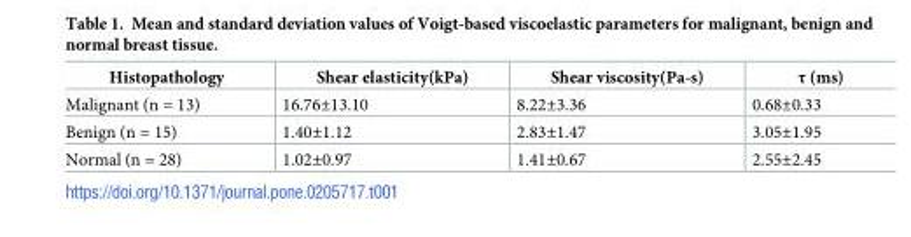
<table><thead><tr><td>Histopathology</td><td>Shear elasticity(kPa)</td><td>Shear viscosity(Pa-s)</td><td>τ (ms)</td></tr></thead><tbody><tr><td>Malignant (n = 13)</td><td>16.76±13.10</td><td>8.22±3.36</td><td>0.68±0.33</td></tr><tr><td>Benign (n = 15)</td><td>1.40±1.12</td><td>2.83±1.47</td><td>3.05±1.95</td></tr><tr><td>Normal (n = 28)</td><td>1.02±0.97</td><td>1.41±0.67</td><td>2.55±2.45</td></tr></tbody></table>